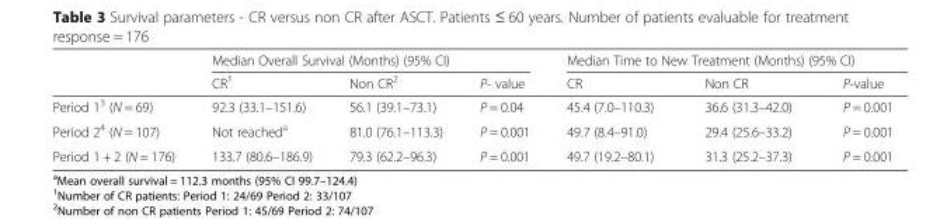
<table><thead><tr><td rowspan="2"></td><td colspan="3">Median Overall Survival (Months) (95% CI)</td><td colspan="3">Median Time to New Treatment (Months) (95% CI)</td></tr><tr><td>CR<sup>1</sup></td><td>Non CR<sup>2</sup></td><td>P- value</td><td>CR</td><td>Non CR</td><td>P-value</td></tr></thead><tbody><tr><td>Period 1<sup>3</sup> (N = 69)</td><td>92.3 (33.1–151.6)</td><td>56.1 (39.1–73.1)</td><td>P = 0.04</td><td>45.4 (7.0–110.3)</td><td>36.6 (31.3–42.0)</td><td>P = 0.001</td></tr><tr><td>Period 2<sup>4</sup> (N = 107)</td><td>Not reached<sup>a</sup></td><td>81.0 (76.1–113.3)</td><td>P = 0.001</td><td>49.7 (8.4–91.0)</td><td>29.4 (25.6–33.2)</td><td>P = 0.001</td></tr><tr><td>Period 1 + 2 (N = 176)</td><td>133.7 (80.6–186.9)</td><td>79.3 (62.2–96.3)</td><td>P = 0.001</td><td>49.7 (19.2–80.1)</td><td>31.3 (25.2–37.3)</td><td>P = 0.001</td></tr></tbody></table>